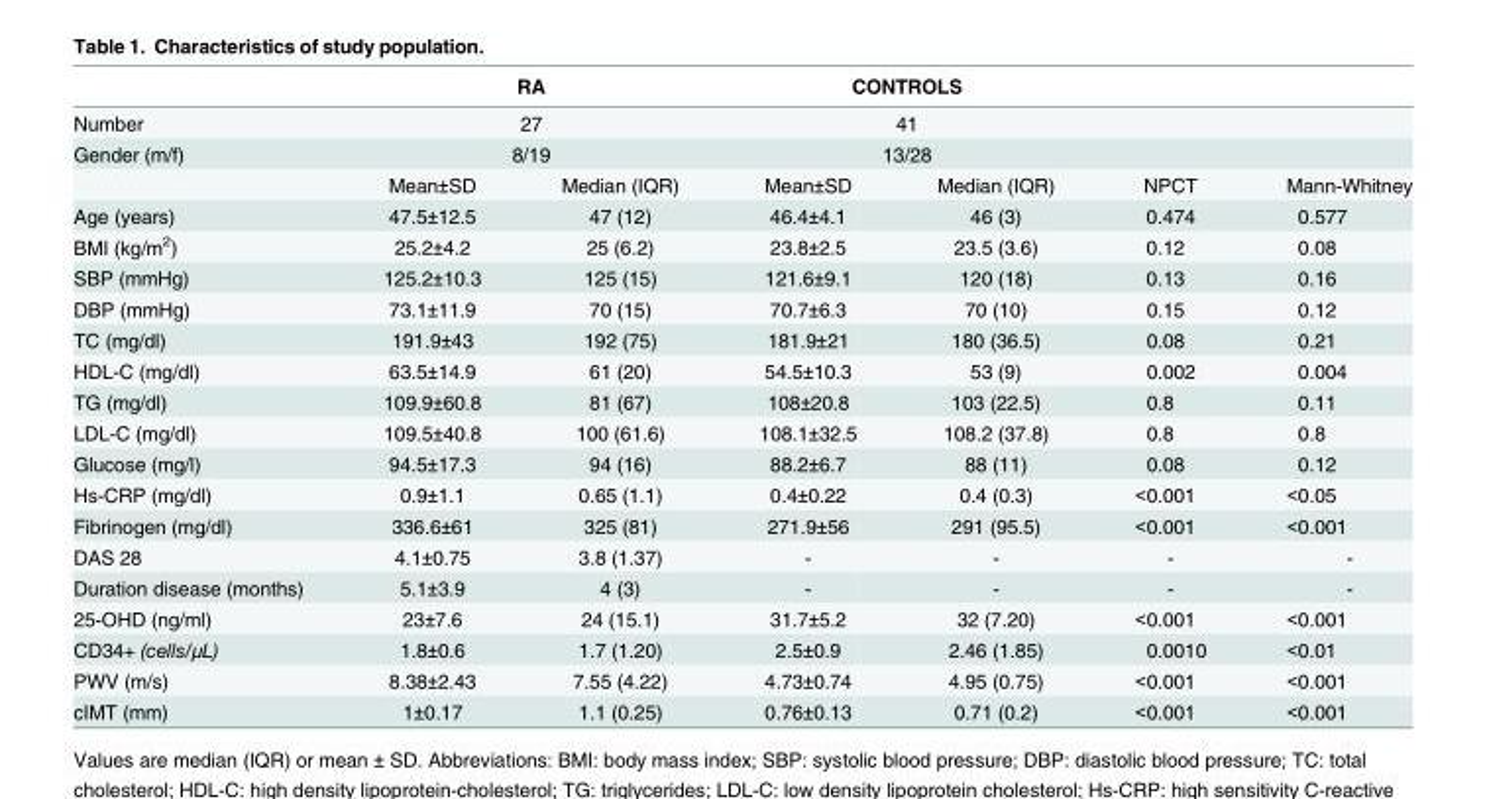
<table><thead><tr><td rowspan="4">Number Gender (m/f)</td><td rowspan="3" colspan="2">RA 27 8/19</td><td rowspan="3" colspan="2">CONTROLS 41 13/28</td><td></td><td></td></tr><tr><td rowspan="2" colspan="2"></td></tr><tr></tr><tr><td>Mean±SD</td><td>Median (IQR)</td><td>Mean±SD</td><td>Median (IQR)</td><td>NPCT</td><td>Mann-Whitney</td></tr></thead><tbody><tr><td>Age (years)</td><td>47.5±12.5</td><td>47 (12)</td><td>46.4±4.1</td><td>46 (3)</td><td>0.474</td><td>0.577</td></tr><tr><td>BMI (kg/m<sup>2</sup>)</td><td>25.2±4.2</td><td>25 (6.2)</td><td>23.8±2.5</td><td>23.5 (3.6)</td><td>0.12</td><td>0.08</td></tr><tr><td>SBP (mmHg)</td><td>125.2±10.3</td><td>125 (15)</td><td>121.6±9.1</td><td>120 (18)</td><td>0.13</td><td>0.16</td></tr><tr><td>DBP (mmHg)</td><td>73.1±11.9</td><td>70 (15)</td><td>70.7±6.3</td><td>70 (10)</td><td>0.15</td><td>0.12</td></tr><tr><td>TC (mg/dl)</td><td>191.9±43</td><td>192 (75)</td><td>181.9±21</td><td>180 (36.5)</td><td>0.08</td><td>0.21</td></tr><tr><td>HDL-C (mg/dl)</td><td>63.5±14.9</td><td>61 (20)</td><td>54.5±10.3</td><td>53 (9)</td><td>0.002</td><td>0.004</td></tr><tr><td>TG (mg/dl)</td><td>109.9±60.8</td><td>81 (67)</td><td>108±20.8</td><td>103 (22.5)</td><td>0.8</td><td>0.11</td></tr><tr><td>LDL-C (mg/dl)</td><td>109.5±40.8</td><td>100 (61.6)</td><td>108.1±32.5</td><td>108.2 (37.8)</td><td>0.8</td><td>0.8</td></tr><tr><td>Glucose (mg/l)</td><td>94.5±17.3</td><td>94 (16)</td><td>88.2±6.7</td><td>88 (11)</td><td>0.08</td><td>0.12</td></tr><tr><td>Hs-CRP (mg/dl)</td><td>0.9±1.1</td><td>0.65 (1.1)</td><td>0.4±0.22</td><td>0.4 (0.3)</td><td>&lt;0.001</td><td>&lt;0.05</td></tr><tr><td>Fibrinogen (mg/dl)</td><td>336.6±61</td><td>325 (81)</td><td>271.9±56</td><td>291 (95.5)</td><td>&lt;0.001</td><td>&lt;0.001</td></tr><tr><td>DAS 28</td><td>4.1±0.75</td><td>3.8 (1.37)</td><td>-</td><td>-</td><td>-</td><td>-</td></tr><tr><td>Duration disease (months)</td><td>5.1±3.9</td><td>4 (3)</td><td>-</td><td>-</td><td>-</td><td>-</td></tr><tr><td>25-OHD (ng/ml)</td><td>23±7.6</td><td>24 (15.1)</td><td>31.7±5.2</td><td>32 (7.20)</td><td>&lt;0.001</td><td>&lt;0.001</td></tr><tr><td>CD34+ (cells/μL)</td><td>1.8±0.6</td><td>1.7 (1.20)</td><td>2.5±0.9</td><td>2.46 (1.85)</td><td>0.0010</td><td>&lt;0.01</td></tr><tr><td>PWV (m/s)</td><td>8.38±2.43</td><td>7.55 (4.22)</td><td>4.73±0.74</td><td>4.95 (0.75)</td><td>&lt;0.001</td><td>&lt;0.001</td></tr><tr><td>cIMT (mm)</td><td>1±0.17</td><td>1.1 (0.25)</td><td>0.76±0.13</td><td>0.71 (0.2)</td><td>&lt;0.001</td><td>&lt;0.001</td></tr></tbody></table>